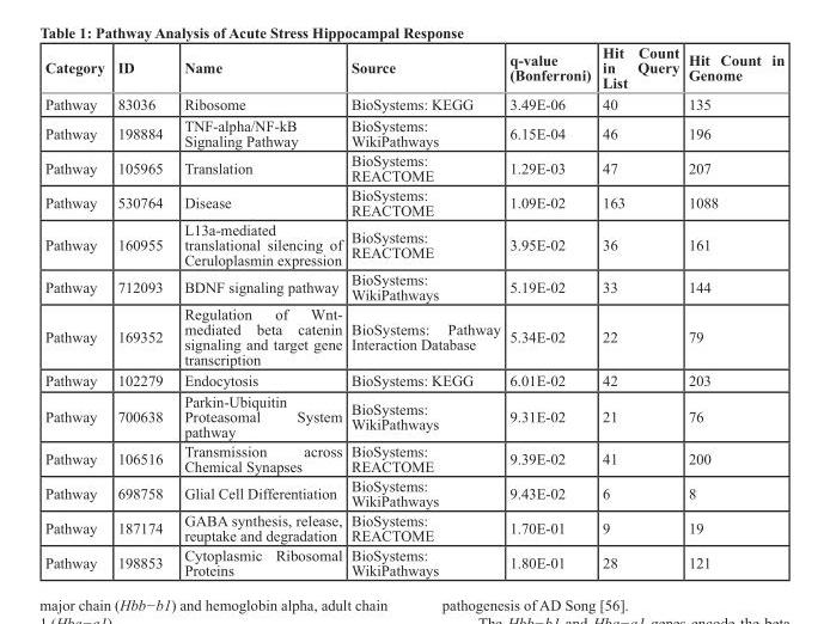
<table><thead><tr><td>Category</td><td>ID</td><td>Name</td><td>Source</td><td>q-value (Bonferroni)</td><td>Hit Count in Query List</td><td>Hit Count in Genome</td></tr></thead><tbody><tr><td>Pathway</td><td>83036</td><td>Ribosome</td><td>BioSystems: KEGG</td><td>3.49E-06</td><td>40</td><td>135</td></tr><tr><td>Pathway</td><td>198884</td><td>TNF-alpha/NF-kB Signaling Pathway</td><td>BioSystems: WikiPathways</td><td>6.15E-04</td><td>46</td><td>196</td></tr><tr><td>Pathway</td><td>105965</td><td>Translation</td><td>BioSystems: REACTOME</td><td>1.29E-03</td><td>47</td><td>207</td></tr><tr><td>Pathway</td><td>530764</td><td>Disease</td><td>BioSystems: REACTOME</td><td>1.09E-02</td><td>163</td><td>1088</td></tr><tr><td>Pathway</td><td>160955</td><td>L13a-mediated translational silencing of Ceruloplasmin expression</td><td>BioSystems: REACTOME</td><td>3.95E-02</td><td>36</td><td>161</td></tr><tr><td>Pathway</td><td>712093</td><td>BDNF signaling pathway</td><td>BioSystems: WikiPathways</td><td>5.19E-02</td><td>33</td><td>144</td></tr><tr><td>Pathway</td><td>169352</td><td>Regulation of Wnt- mediated beta catenin signaling and target gene transcription</td><td>BioSystems: Pathway Interaction Database</td><td>5.34E-02</td><td>22</td><td>79</td></tr><tr><td>Pathway</td><td>102279</td><td>Endocytosis</td><td>BioSystems: KEGG</td><td>6.01E-02</td><td>42</td><td>203</td></tr><tr><td>Pathway</td><td>700638</td><td>Parkin-Ubiquitin Proteasomal System pathway</td><td>BioSystems: WikiPathways</td><td>9.31E-02</td><td>21</td><td>76</td></tr><tr><td>Pathway</td><td>106516</td><td>Transmission across Chemical Synapses</td><td>BioSystems: REACTOME</td><td>9.39E-02</td><td>41</td><td>200</td></tr><tr><td>Pathway</td><td>698758</td><td>Glial Cell Differentiation</td><td>BioSystems: WikiPathways</td><td>9.43E-02</td><td>6</td><td>8</td></tr><tr><td>Pathway</td><td>187174</td><td>GABA synthesis, release, reuptake and degradation</td><td>BioSystems: REACTOME</td><td>1.70E-01</td><td>9</td><td>19</td></tr><tr><td>Pathway</td><td>198853</td><td>Cytoplasmic Ribosomal Proteins</td><td>BioSystems: WikiPathways</td><td>1.80E-01</td><td>28</td><td>121</td></tr></tbody></table>